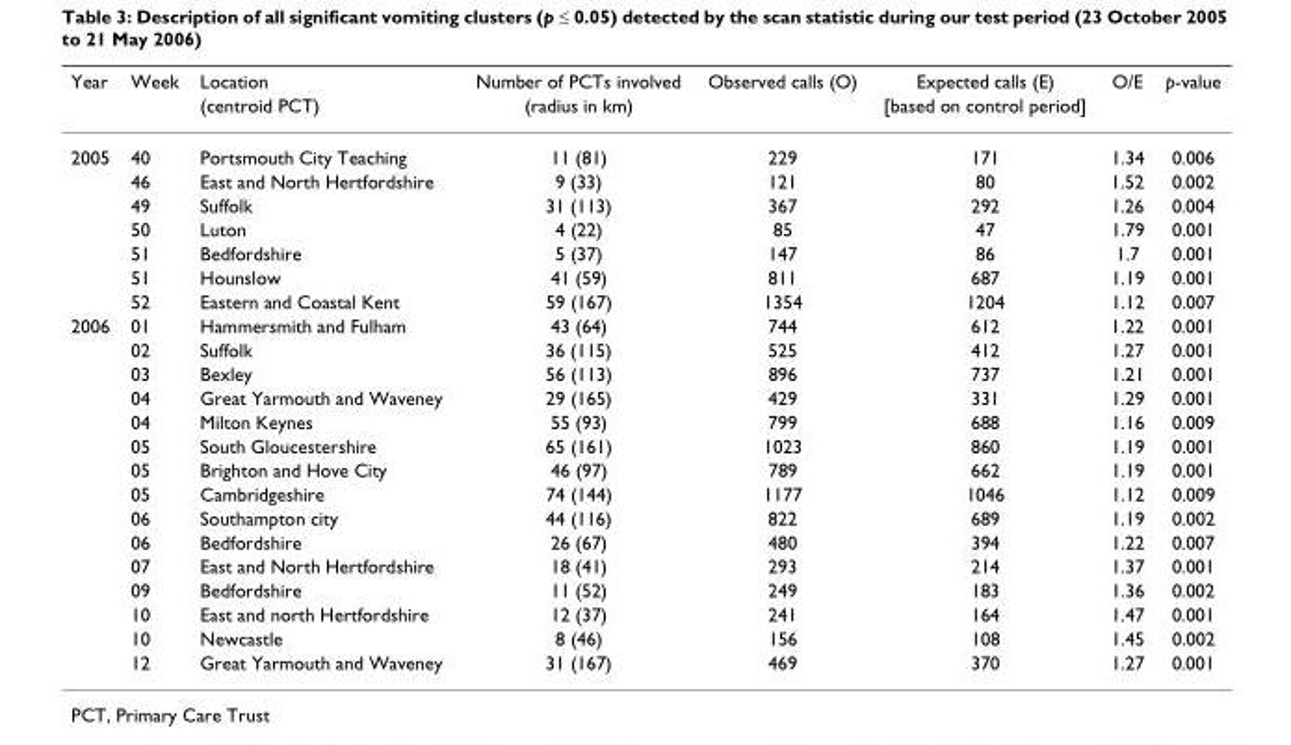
<table><thead><tr><td rowspan="2">Year</td><td rowspan="2">Week</td><td rowspan="2">Location (centroid PCT)</td><td rowspan="2">Number of PCTs involved (radius in km)</td><td rowspan="2">Observed calls (O)</td><td rowspan="2">Expected calls (E) [based on control period]</td><td rowspan="2">O/E</td><td rowspan="2">p-value</td></tr><tr></tr></thead><tbody><tr><td rowspan="7">2005</td><td>40</td><td>Portsmouth City Teaching</td><td>11 (81)</td><td>229</td><td>171</td><td>1.34</td><td>0.006</td></tr><tr><td>46</td><td>East and North Hertfordshire</td><td>9 (33)</td><td>121</td><td>80</td><td>1.52</td><td>0.002</td></tr><tr><td>49</td><td>Suffolk</td><td>31 (113)</td><td>367</td><td>292</td><td>1.26</td><td>0.004</td></tr><tr><td>50</td><td>Luton</td><td>4 (22)</td><td>85</td><td>47</td><td>1.79</td><td>0.001</td></tr><tr><td>51</td><td>Bedfordshire</td><td>5 (37)</td><td>147</td><td>86</td><td>1.7</td><td>0.001</td></tr><tr><td>51</td><td>Hounslow</td><td>41 (59)</td><td>811</td><td>687</td><td>1.19</td><td>0.001</td></tr><tr><td>52</td><td>Eastern and Coastal Kent</td><td>59 (167)</td><td>1354</td><td>1204</td><td>1.12</td><td>0.007</td></tr><tr><td rowspan="15">2006</td><td>01</td><td>Hammersmith and Fulham</td><td>43 (64)</td><td>744</td><td>612</td><td>1.22</td><td>0.001</td></tr><tr><td>02</td><td>Suffolk</td><td>36 (115)</td><td>525</td><td>412</td><td>1.27</td><td>0.001</td></tr><tr><td>03</td><td>Bexley</td><td>56 (113)</td><td>896</td><td>737</td><td>1.21</td><td>0.001</td></tr><tr><td>04</td><td>Great Yarmouth and Waveney</td><td>29 (165)</td><td>429</td><td>331</td><td>1.29</td><td>0.001</td></tr><tr><td>04</td><td>Milton Keynes</td><td>55 (93)</td><td>799</td><td>688</td><td>1.16</td><td>0.009</td></tr><tr><td>05</td><td>South Gloucestershire</td><td>65 (161)</td><td>1023</td><td>860</td><td>1.19</td><td>0.001</td></tr><tr><td>05</td><td>Brighton and Hove City</td><td>46 (97)</td><td>789</td><td>662</td><td>1.19</td><td>0.001</td></tr><tr><td>05</td><td>Cambridgeshire</td><td>74 (144)</td><td>1177</td><td>1046</td><td>1.12</td><td>0.009</td></tr><tr><td>06</td><td>Southampton city</td><td>44 (116)</td><td>822</td><td>689</td><td>1.19</td><td>0.002</td></tr><tr><td>06</td><td>Bedfordshire</td><td>26 (67)</td><td>480</td><td>394</td><td>1.22</td><td>0.007</td></tr><tr><td>07</td><td>East and North Hertfordshire</td><td>18 (41)</td><td>293</td><td>214</td><td>1.37</td><td>0.001</td></tr><tr><td>09</td><td>Bedfordshire</td><td>11 (52)</td><td>249</td><td>183</td><td>1.36</td><td>0.002</td></tr><tr><td>10</td><td>East and north Hertfordshire</td><td>12 (37)</td><td>241</td><td>164</td><td>1.47</td><td>0.001</td></tr><tr><td>10</td><td>Newcastle</td><td>8 (46)</td><td>156</td><td>108</td><td>1.45</td><td>0.002</td></tr><tr><td>12</td><td>Great Yarmouth and Waveney</td><td>31 (167)</td><td>469</td><td>370</td><td>1.27</td><td>0.001</td></tr></tbody></table>